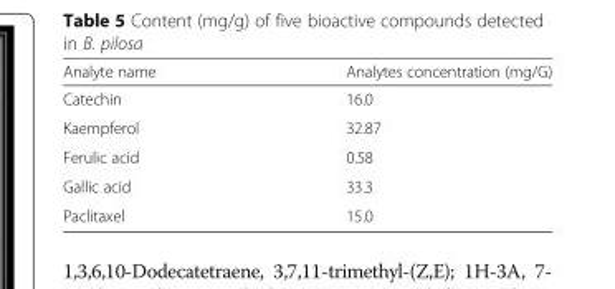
<table><thead><tr><td>Analyte name</td><td>Analytes concentration (mg/G)</td></tr></thead><tbody><tr><td>Catechin</td><td>16.0</td></tr><tr><td>Kaempferol</td><td>32.87</td></tr><tr><td>Ferulic acid</td><td>0.58</td></tr><tr><td>Gallic acid</td><td>33.3</td></tr><tr><td>Paclitaxel</td><td>15.0</td></tr></tbody></table>